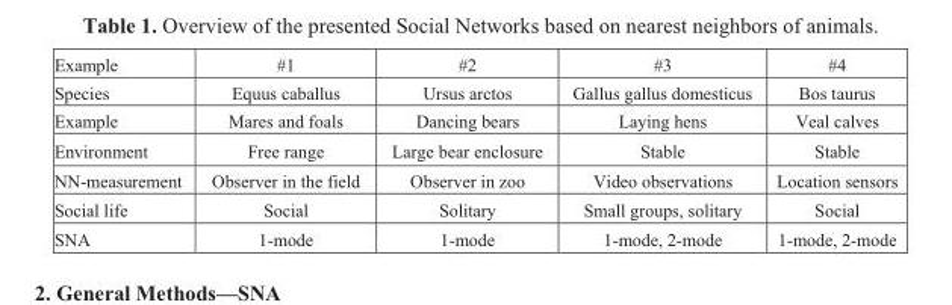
<table><tbody><tr><td>Example</td><td>#1</td><td>#2</td><td>#3</td><td>#4</td></tr><tr><td>Species</td><td>Equus caballus</td><td>Ursus arctos</td><td>Gallus gallus domesticus</td><td>Bos taurus</td></tr><tr><td>Example</td><td>Mares and foals</td><td>Dancing bears</td><td>Laying hens</td><td>Veal calves</td></tr><tr><td>Environment</td><td>Free range</td><td>Large bear enclosure</td><td>Stable</td><td>Stable</td></tr><tr><td>NN-measurement</td><td>Observer in the field</td><td>Observer in zoo</td><td>Video observations</td><td>Location sensors</td></tr><tr><td>Social life</td><td>Social</td><td>Solitary</td><td>Small groups, solitary</td><td>Social</td></tr><tr><td>SNA</td><td>1-mode</td><td>1-mode</td><td>1-mode, 2-mode</td><td>1-mode, 2-mode</td></tr></tbody></table>